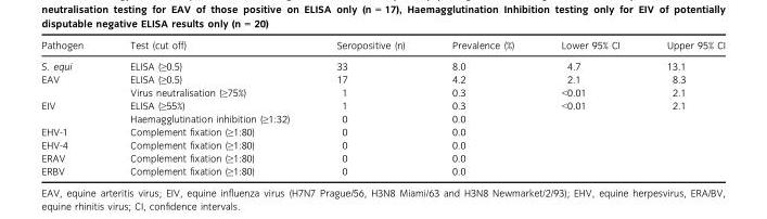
<table><thead><tr><td>Pathogen</td><td>Test (cut off)</td><td>Seropositive (n)</td><td>Prevalence (%)</td><td>Lower 95% CI</td><td>Upper 95% CI</td></tr></thead><tbody><tr><td>S. equi</td><td>ELISA (≥0.5)</td><td>33</td><td>8.0</td><td>4.7</td><td>13.1</td></tr><tr><td rowspan="2">EAV</td><td>ELISA (≥0.5)</td><td>17</td><td>4.2</td><td>2.1</td><td>8.3</td></tr><tr><td>Virus neutralisation (≥75%)</td><td>1</td><td>0.3</td><td>&lt;0.01</td><td>2.1</td></tr><tr><td rowspan="2">EIV</td><td>ELISA (≥55%)</td><td>1</td><td>0.3</td><td>&lt;0.01</td><td>2.1</td></tr><tr><td>Haemagglutination inhibition (≥1:32)</td><td>0</td><td>0.0</td><td></td><td></td></tr><tr><td>EHV-1</td><td>Complement fixation (≥1:80)</td><td>0</td><td>0.0</td><td></td><td></td></tr><tr><td>EHV-4</td><td>Complement fixation (≥1:80)</td><td>0</td><td>0.0</td><td></td><td></td></tr><tr><td>ERAV</td><td>Complement fixation (≥1:80)</td><td>0</td><td>0.0</td><td></td><td></td></tr><tr><td>ERBV</td><td>Complement fixation (≥1:80)</td><td>0</td><td>0.0</td><td></td><td></td></tr></tbody></table>